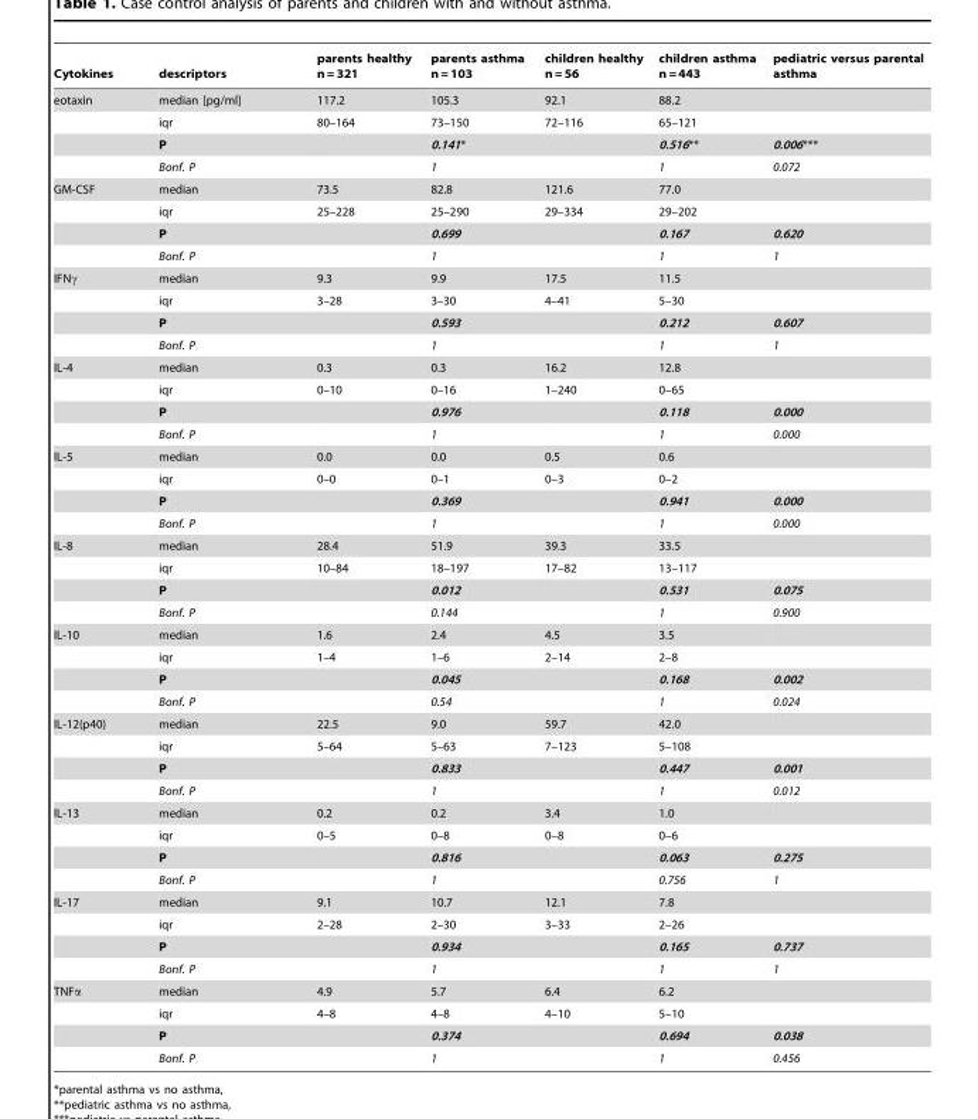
<table><thead><tr><td>Cytokines</td><td>descriptors</td><td>parents healthy n = 321</td><td>parents asthma n = 103</td><td>children healthy n = 56</td><td>children asthma n = 443</td><td>pediatric versus parental asthma</td></tr></thead><tbody><tr><td rowspan="4">eotaxin</td><td>median [pg/ml]</td><td>117.2</td><td>105.3</td><td>92.1</td><td>88.2</td><td></td></tr><tr><td>iqr</td><td>80–164</td><td>73–150</td><td>72–116</td><td>65–121</td><td></td></tr><tr><td>P</td><td></td><td>0.141*</td><td></td><td>0.516**</td><td>0.006***</td></tr><tr><td>Bonf. P</td><td></td><td>1</td><td></td><td>1</td><td>0.072</td></tr><tr><td rowspan="4">GM-CSF</td><td>median</td><td>73.5</td><td>82.8</td><td>121.6</td><td>77.0</td><td></td></tr><tr><td>iqr</td><td>25–228</td><td>25–290</td><td>29–334</td><td>29–202</td><td></td></tr><tr><td>P</td><td></td><td>0.699</td><td></td><td>0.167</td><td>0.620</td></tr><tr><td>Bonf. P</td><td></td><td>1</td><td></td><td>1</td><td>1</td></tr><tr><td rowspan="4">IFNγ</td><td>median</td><td>9.3</td><td>9.9</td><td>17.5</td><td>11.5</td><td></td></tr><tr><td>iqr</td><td>3–28</td><td>3–30</td><td>4–41</td><td>5–30</td><td></td></tr><tr><td>P</td><td></td><td>0.593</td><td></td><td>0.212</td><td>0.607</td></tr><tr><td>Bonf. P</td><td></td><td>1</td><td></td><td>1</td><td>1</td></tr><tr><td rowspan="4">IL-4</td><td>median</td><td>0.3</td><td>0.3</td><td>16.2</td><td>12.8</td><td></td></tr><tr><td>iqr</td><td>0–10</td><td>0–16</td><td>1–240</td><td>0–65</td><td></td></tr><tr><td>P</td><td></td><td>0.976</td><td></td><td>0.118</td><td>0.000</td></tr><tr><td>Bonf. P</td><td></td><td>1</td><td></td><td>1</td><td>0.000</td></tr><tr><td rowspan="4">IL-5</td><td>median</td><td>0.0</td><td>0.0</td><td>0.5</td><td>0.6</td><td></td></tr><tr><td>iqr</td><td>0–0</td><td>0–1</td><td>0–3</td><td>0–2</td><td></td></tr><tr><td>P</td><td></td><td>0.369</td><td></td><td>0.941</td><td>0.000</td></tr><tr><td>Bonf. P</td><td></td><td>1</td><td></td><td>1</td><td>0.000</td></tr><tr><td rowspan="4">IL-8</td><td>median</td><td>28.4</td><td>51.9</td><td>39.3</td><td>33.5</td><td></td></tr><tr><td>iqr</td><td>10–84</td><td>18–197</td><td>17–82</td><td>13–117</td><td></td></tr><tr><td>P</td><td></td><td>0.012</td><td></td><td>0.531</td><td>0.075</td></tr><tr><td>Bonf. P</td><td></td><td>0.144</td><td></td><td>1</td><td>0.900</td></tr><tr><td rowspan="4">IL-10</td><td>median</td><td>1.6</td><td>2.4</td><td>4.5</td><td>3.5</td><td></td></tr><tr><td>iqr</td><td>1–4</td><td>1–6</td><td>2–14</td><td>2–8</td><td></td></tr><tr><td>P</td><td></td><td>0.045</td><td></td><td>0.168</td><td>0.002</td></tr><tr><td>Bonf. P</td><td></td><td>0.54</td><td></td><td>1</td><td>0.024</td></tr><tr><td rowspan="4">IL-12(p40)</td><td>median</td><td>22.5</td><td>9.0</td><td>59.7</td><td>42.0</td><td></td></tr><tr><td>iqr</td><td>5–64</td><td>5–63</td><td>7–123</td><td>5–108</td><td></td></tr><tr><td>P</td><td></td><td>0.833</td><td></td><td>0.447</td><td>0.001</td></tr><tr><td>Bonf. P</td><td></td><td>1</td><td></td><td>1</td><td>0.012</td></tr><tr><td rowspan="4">IL-13</td><td>median</td><td>0.2</td><td>0.2</td><td>3.4</td><td>1.0</td><td></td></tr><tr><td>iqr</td><td>0–5</td><td>0–8</td><td>0–8</td><td>0–6</td><td></td></tr><tr><td>P</td><td></td><td>0.816</td><td></td><td>0.063</td><td>0.275</td></tr><tr><td>Bonf. P</td><td></td><td>1</td><td></td><td>0.756</td><td>1</td></tr><tr><td rowspan="4">IL-17</td><td>median</td><td>9.1</td><td>10.7</td><td>12.1</td><td>7.8</td><td></td></tr><tr><td>iqr</td><td>2–28</td><td>2–30</td><td>3–33</td><td>2–26</td><td></td></tr><tr><td>P</td><td></td><td>0.934</td><td></td><td>0.165</td><td>0.737</td></tr><tr><td>Bonf. P</td><td></td><td>1</td><td></td><td>1</td><td>1</td></tr><tr><td rowspan="4">TNFα</td><td>median</td><td>4.9</td><td>5.7</td><td>6.4</td><td>6.2</td><td></td></tr><tr><td>iqr</td><td>4–8</td><td>4–8</td><td>4–10</td><td>5–10</td><td></td></tr><tr><td>P</td><td></td><td>0.374</td><td></td><td>0.694</td><td>0.038</td></tr><tr><td>Bonf. P</td><td></td><td>1</td><td></td><td>1</td><td>0.456</td></tr></tbody></table>